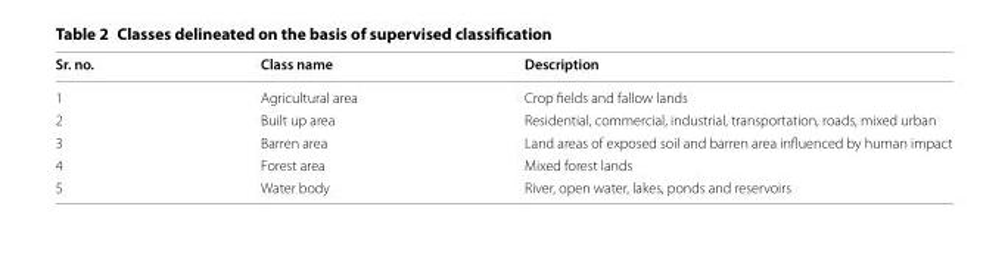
<table><thead><tr><td>Sr. no.</td><td>Class name</td><td>Description</td></tr></thead><tbody><tr><td>1</td><td>Agricultural area</td><td>Crop fields and fallow lands</td></tr><tr><td>2</td><td>Built up area</td><td>Residential, commercial, industrial, transportation, roads, mixed urban</td></tr><tr><td>3</td><td>Barren area</td><td>Land areas of exposed soil and barren area influenced by human impact</td></tr><tr><td>4</td><td>Forest area</td><td>Mixed forest lands</td></tr><tr><td>5</td><td>Water body</td><td>River, open water, lakes, ponds and reservoirs</td></tr></tbody></table>